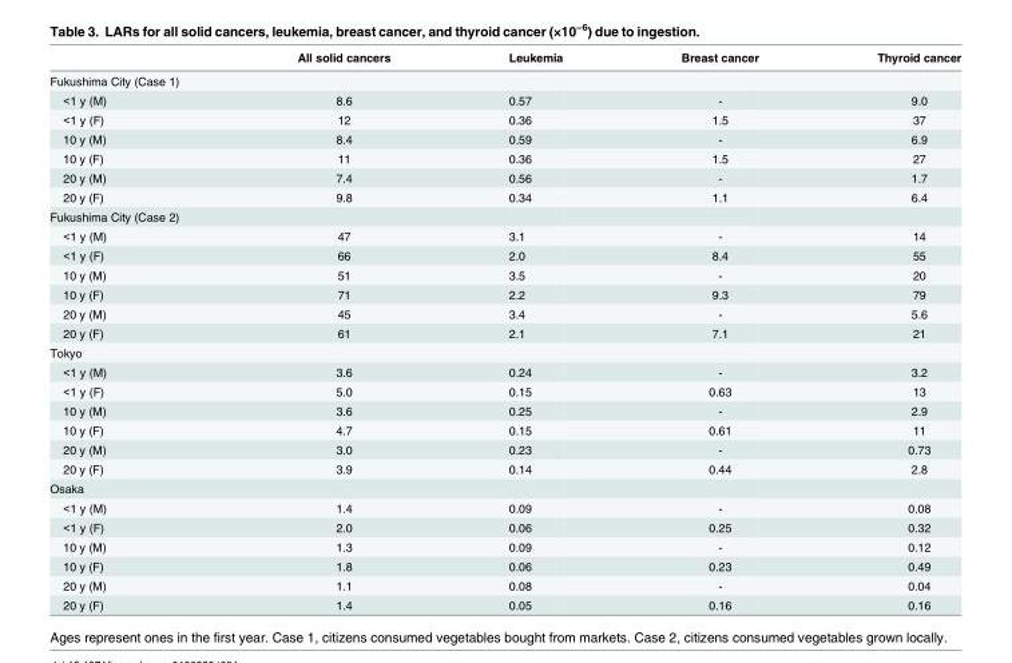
<table><thead><tr><td></td><td>All solid cancers</td><td>Leukemia</td><td>Breast cancer</td><td>Thyroid cancer</td></tr></thead><tbody><tr><td colspan="5">Fukushima City (Case 1)</td></tr><tr><td>&lt;1 y (M)</td><td>8.6</td><td>0.57</td><td>-</td><td>9.0</td></tr><tr><td>&lt;1 y (F)</td><td>12</td><td>0.36</td><td>1.5</td><td>37</td></tr><tr><td>10 y (M)</td><td>8.4</td><td>0.59</td><td>-</td><td>6.9</td></tr><tr><td>10 y (F)</td><td>11</td><td>0.36</td><td>1.5</td><td>27</td></tr><tr><td>20 y (M)</td><td>7.4</td><td>0.56</td><td>-</td><td>1.7</td></tr><tr><td>20 y (F)</td><td>9.8</td><td>0.34</td><td>1.1</td><td>6.4</td></tr><tr><td colspan="5">Fukushima City (Case 2)</td></tr><tr><td>&lt;1 y (M)</td><td>47</td><td>3.1</td><td>-</td><td>14</td></tr><tr><td>&lt;1 y (F)</td><td>66</td><td>2.0</td><td>8.4</td><td>55</td></tr><tr><td>10 y (M)</td><td>51</td><td>3.5</td><td>-</td><td>20</td></tr><tr><td>10 y (F)</td><td>71</td><td>2.2</td><td>9.3</td><td>79</td></tr><tr><td>20 y (M)</td><td>45</td><td>3.4</td><td>-</td><td>5.6</td></tr><tr><td>20 y (F)</td><td>61</td><td>2.1</td><td>7.1</td><td>21</td></tr><tr><td colspan="5">Tokyo</td></tr><tr><td>&lt;1 y (M)</td><td>3.6</td><td>0.24</td><td>-</td><td>3.2</td></tr><tr><td>&lt;1 y (F)</td><td>5.0</td><td>0.15</td><td>0.63</td><td>13</td></tr><tr><td>10 y (M)</td><td>3.6</td><td>0.25</td><td>-</td><td>2.9</td></tr><tr><td>10 y (F)</td><td>4.7</td><td>0.15</td><td>0.61</td><td>11</td></tr><tr><td>20 y (M)</td><td>3.0</td><td>0.23</td><td>-</td><td>0.73</td></tr><tr><td>20 y (F)</td><td>3.9</td><td>0.14</td><td>0.44</td><td>2.8</td></tr><tr><td colspan="5">Osaka</td></tr><tr><td>&lt;1 y (M)</td><td>1.4</td><td>0.09</td><td>-</td><td>0.08</td></tr><tr><td>&lt;1 y (F)</td><td>2.0</td><td>0.06</td><td>0.25</td><td>0.32</td></tr><tr><td>10 y (M)</td><td>1.3</td><td>0.09</td><td>-</td><td>0.12</td></tr><tr><td>10 y (F)</td><td>1.8</td><td>0.06</td><td>0.23</td><td>0.49</td></tr><tr><td>20 y (M)</td><td>1.1</td><td>0.08</td><td>-</td><td>0.04</td></tr><tr><td>20 y (F)</td><td>1.4</td><td>0.05</td><td>0.16</td><td>0.16</td></tr></tbody></table>